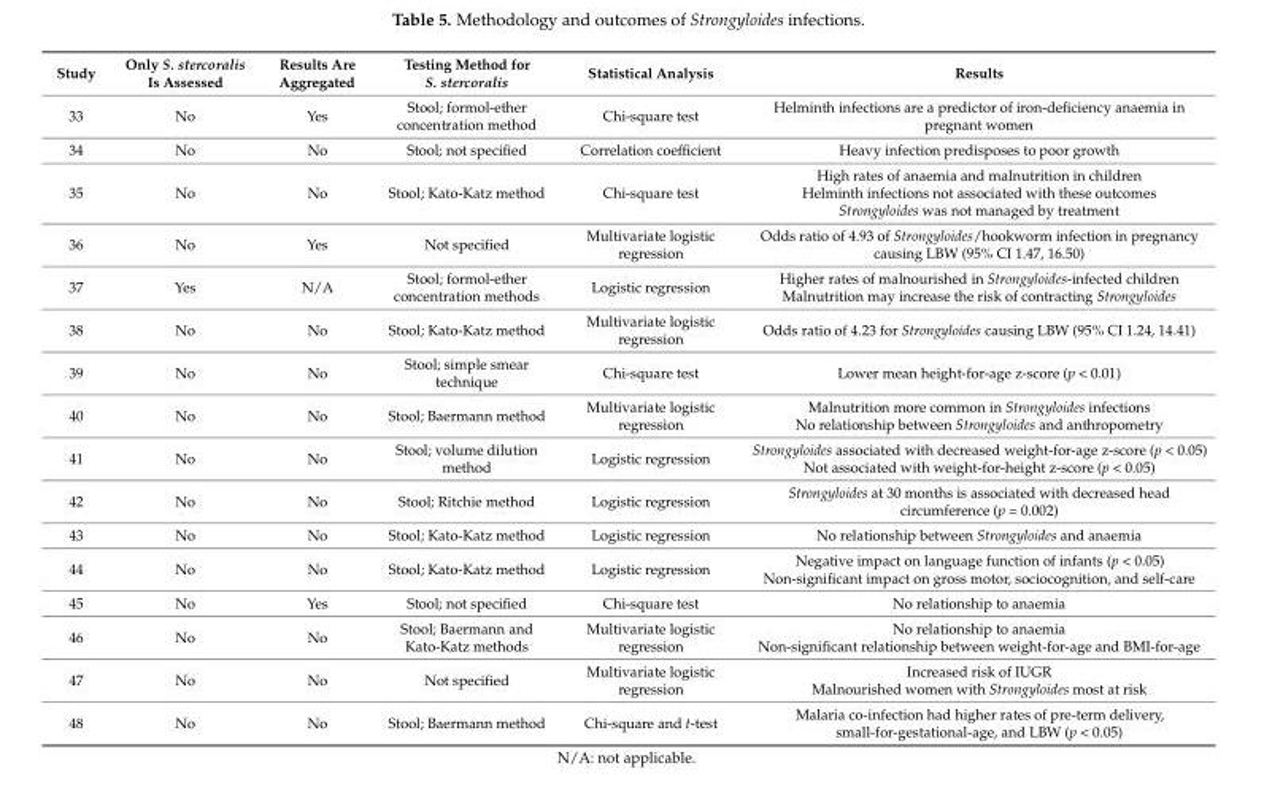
<table><thead><tr><td>Study</td><td>Only S. stercoralis Is Assessed</td><td>Results Are Aggregated</td><td>Testing Method for S. stercoralis</td><td>Statistical Analysis</td><td>Results</td></tr></thead><tbody><tr><td>33</td><td>No</td><td>Yes</td><td>Stool; formol-ether concentration method</td><td>Chi-square test</td><td>Helminth infections are a predictor of iron-deficiency anaemia in pregnant women</td></tr><tr><td>34</td><td>No</td><td>No</td><td>Stool; not specified</td><td>Correlation coefficient</td><td>Heavy infection predisposes to poor growth</td></tr><tr><td>35</td><td>No</td><td>No</td><td>Stool; Kato-Katz method</td><td>Chi-square test</td><td>High rates of anaemia and malnutrition in children Helminth infections not associated with these outcomes Strongyloides was not managed by treatment</td></tr><tr><td>36</td><td>No</td><td>Yes</td><td>Not specified</td><td>Multivariate logistic regression</td><td>Odds ratio of 4.93 of Strongyloides/hookworm infection in pregnancy causing LBW (95% CI 1.47, 16.50)</td></tr><tr><td>37</td><td>Yes</td><td>N/A</td><td>Stool; formol-ether concentration methods</td><td>Logistic regression</td><td>Higher rates of malnourished in Strongyloides-infected children Malnutrition may increase the risk of contracting Strongyloides</td></tr><tr><td>38</td><td>No</td><td>No</td><td>Stool; Kato-Katz method</td><td>Multivariate logistic regression</td><td>Odds ratio of 4.23 for Strongyloides causing LBW (95% CI 1.24, 14.41)</td></tr><tr><td>39</td><td>No</td><td>No</td><td>Stool; simple smear technique</td><td>Chi-square test</td><td>Lower mean height-for-age z-score (p &lt; 0.01)</td></tr><tr><td>40</td><td>No</td><td>No</td><td>Stool; Baermann method</td><td>Multivariate logistic regression</td><td>Malnutrition more common in Strongyloides infections No relationship between Strongyloides and anthropometry</td></tr><tr><td>41</td><td>No</td><td>No</td><td>Stool; volume dilution method</td><td>Logistic regression</td><td>Strongyloides associated with decreased weight-for-age z-score (p &lt; 0.05) Not associated with weight-for-height z-score (p &lt; 0.05)</td></tr><tr><td>42</td><td>No</td><td>No</td><td>Stool; Ritchie method</td><td>Logistic regression</td><td>Strongyloides at 30 months is associated with decreased head circumference (p = 0.002)</td></tr><tr><td>43</td><td>No</td><td>No</td><td>Stool; Kato-Katz method</td><td>Logistic regression</td><td>No relationship between Strongyloides and anaemia</td></tr><tr><td>44</td><td>No</td><td>No</td><td>Stool; Kato-Katz method</td><td>Logistic regression</td><td>Negative impact on language function of infants (p &lt; 0.05) Non-significant impact on gross motor, sociocognition, and self-care</td></tr><tr><td>45</td><td>No</td><td>Yes</td><td>Stool; not specified</td><td>Chi-square test</td><td>No relationship to anaemia</td></tr><tr><td>46</td><td>No</td><td>No</td><td>Stool; Baermann and Kato-Katz methods</td><td>Multivariate logistic regression</td><td>No relationship to anaemia Non-significant relationship between weight-for-age and BMI-for-age</td></tr><tr><td>47</td><td>No</td><td>No</td><td>Not specified</td><td>Multivariate logistic regression</td><td>Increased risk of IUGR Malnourished women with Strongyloides most at risk</td></tr><tr><td>48</td><td>No</td><td>No</td><td>Stool; Baermann method</td><td>Chi-square and t-test</td><td>Malaria co-infection had higher rates of pre-term delivery, small-for-gestational-age, and LBW (p &lt; 0.05)</td></tr></tbody></table>